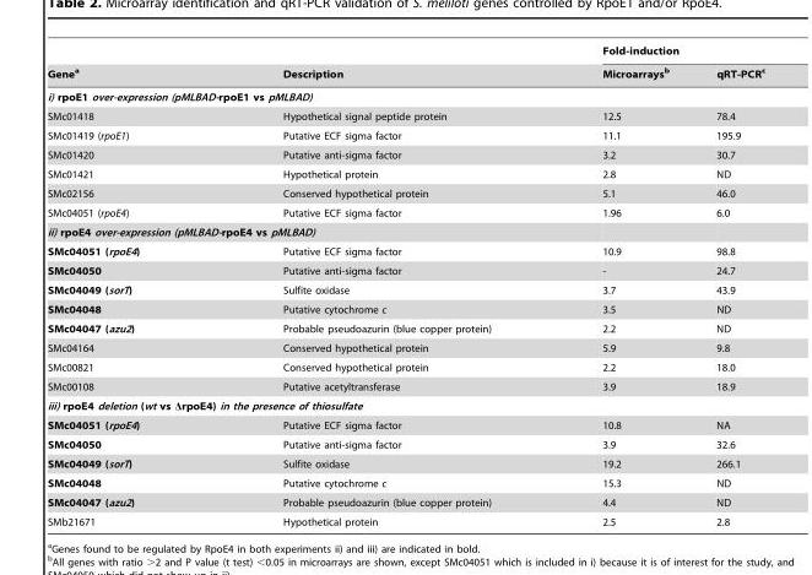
<table><thead><tr><td rowspan="2">Gene<sup>a</sup></td><td rowspan="2">Description</td><td colspan="2">Fold-induction</td></tr><tr><td>Microarrays<sup>b</sup></td><td>qRT-PCR<sup>c</sup></td></tr></thead><tbody><tr><td colspan="4">i) rpoE1 over-expression (pMLBAD-rpoE1 vs pMLBAD)</td></tr><tr><td>SMc01418</td><td>Hypothetical signal peptide protein</td><td>12.5</td><td>78.4</td></tr><tr><td>SMc01419 (rpoE1)</td><td>Putative ECF sigma factor</td><td>11.1</td><td>195.9</td></tr><tr><td>SMc01420</td><td>Putative anti-sigma factor</td><td>3.2</td><td>30.7</td></tr><tr><td>SMc01421</td><td>Hypothetical protein</td><td>2.8</td><td>ND</td></tr><tr><td>SMc02156</td><td>Conserved hypothetical protein</td><td>5.1</td><td>46.0</td></tr><tr><td>SMc04051 (rpoE4)</td><td>Putative ECF sigma factor</td><td>1.96</td><td>6.0</td></tr><tr><td colspan="4">ii) rpoE4 over-expression (pMLBAD-rpoE4 vs pMLBAD)</td></tr><tr><td>SMc04051 (rpoE4)</td><td>Putative ECF sigma factor</td><td>10.9</td><td>98.8</td></tr><tr><td>SMc04050</td><td>Putative anti-sigma factor</td><td>-</td><td>24.7</td></tr><tr><td>SMc04049 (sorT)</td><td>Sulfite oxidase</td><td>3.7</td><td>43.9</td></tr><tr><td>SMc04048</td><td>Putative cytochrome c</td><td>3.5</td><td>ND</td></tr><tr><td>SMc04047 (azu2)</td><td>Probable pseudoazurin (blue copper protein)</td><td>2.2</td><td>ND</td></tr><tr><td>SMc04164</td><td>Conserved hypothetical protein</td><td>5.9</td><td>9.8</td></tr><tr><td>SMc00821</td><td>Conserved hypothetical protein</td><td>2.2</td><td>18.0</td></tr><tr><td>SMc00108</td><td>Putative acetyltransferase</td><td>3.9</td><td>18.9</td></tr><tr><td colspan="4">iii) rpoE4 deletion (wt vs ΔrpoE4) in the presence of thiosulfate</td></tr><tr><td>SMc04051 (rpoE4)</td><td>Putative ECF sigma factor</td><td>10.8</td><td>NA</td></tr><tr><td>SMc04050</td><td>Putative anti-sigma factor</td><td>3.9</td><td>32.6</td></tr><tr><td>SMc04049 (sorT)</td><td>Sulfite oxidase</td><td>19.2</td><td>266.1</td></tr><tr><td>SMc04048</td><td>Putative cytochrome c</td><td>15.3</td><td>ND</td></tr><tr><td>SMc04047 (azu2)</td><td>Probable pseudoazurin (blue copper protein)</td><td>4.4</td><td>ND</td></tr><tr><td>SMb21671</td><td>Hypothetical protein</td><td>2.5</td><td>2.8</td></tr></tbody></table>